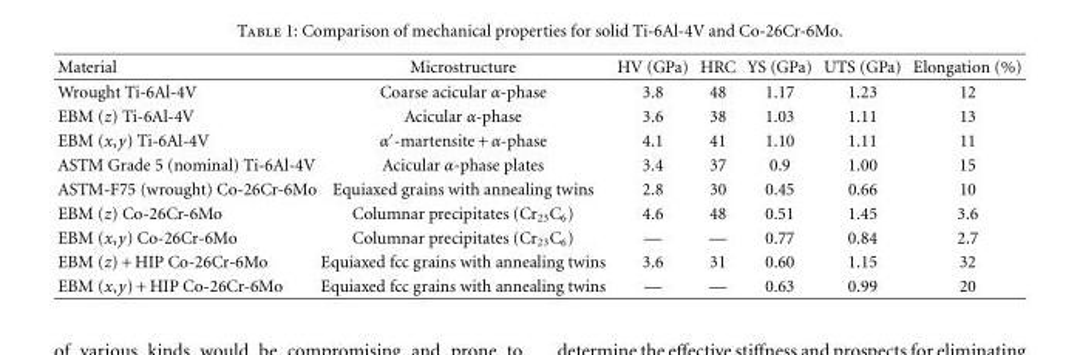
<table><thead><tr><td>Material</td><td>Microstructure</td><td>HV (GPa)</td><td>HRC</td><td>YS (GPa)</td><td>UTS (GPa)</td><td>Elongation (%)</td></tr></thead><tbody><tr><td>Wrought Ti-6Al-4V</td><td>Coarse acicular α-phase</td><td>3.8</td><td>48</td><td>1.17</td><td>1.23</td><td>12</td></tr><tr><td>EBM (z) Ti-6Al-4V</td><td>Acicular α-phase</td><td>3.6</td><td>38</td><td>1.03</td><td>1.11</td><td>13</td></tr><tr><td>EBM (x,y) Ti-6Al-4V</td><td>α′-martensite + α-phase</td><td>4.1</td><td>41</td><td>1.10</td><td>1.11</td><td>11</td></tr><tr><td>ASTM Grade 5 (nominal) Ti-6Al-4V</td><td>Acicular α-phase plates</td><td>3.4</td><td>37</td><td>0.9</td><td>1.00</td><td>15</td></tr><tr><td>ASTM-F75 (wrought) Co-26Cr-6Mo</td><td>Equiaxed grains with annealing twins</td><td>2.8</td><td>30</td><td>0.45</td><td>0.66</td><td>10</td></tr><tr><td>EBM (z) Co-26Cr-6Mo</td><td>Columnar precipitates (Cr<sub>23</sub>C<sub>6</sub>)</td><td>4.6</td><td>48</td><td>0.51</td><td>1.45</td><td>3.6</td></tr><tr><td>EBM (x,y) Co-26Cr-6Mo</td><td>Columnar precipitates (Cr<sub>23</sub>C<sub>6</sub>)</td><td>—</td><td>—</td><td>0.77</td><td>0.84</td><td>2.7</td></tr><tr><td>EBM (z) + HIP Co-26Cr-6Mo</td><td>Equiaxed fcc grains with annealing twins</td><td>3.6</td><td>31</td><td>0.60</td><td>1.15</td><td>32</td></tr><tr><td>EBM (x,y) + HIP Co-26Cr-6Mo</td><td>Equiaxed fcc grains with annealing twins</td><td>—</td><td>—</td><td>0.63</td><td>0.99</td><td>20</td></tr></tbody></table>